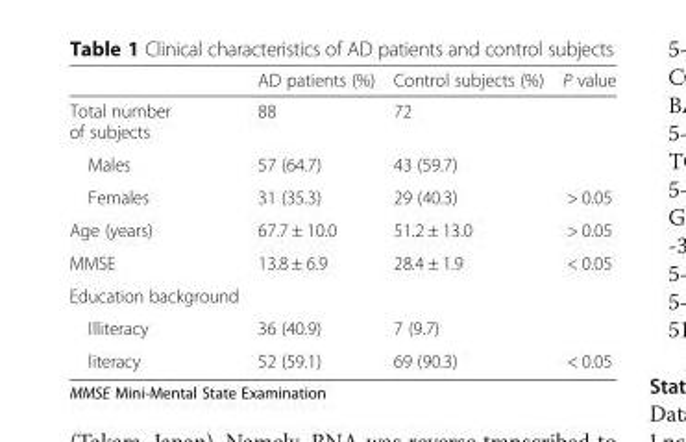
<table><thead><tr><td></td><td>AD patients (%)</td><td>Control subjects (%)</td><td>P value</td></tr></thead><tbody><tr><td>Total number of subjects</td><td>88</td><td>72</td><td></td></tr><tr><td>Males</td><td>57 (64.7)</td><td>43 (59.7)</td><td></td></tr><tr><td>Females</td><td>31 (35.3)</td><td>29 (40.3)</td><td>&gt; 0.05</td></tr><tr><td>Age (years)</td><td>67.7 ± 10.0</td><td>51.2 ± 13.0</td><td>&gt; 0.05</td></tr><tr><td>MMSE</td><td>13.8 ± 6.9</td><td>28.4 ± 1.9</td><td>&lt; 0.05</td></tr><tr><td colspan="4">Education background</td></tr><tr><td>Illiteracy</td><td>36 (40.9)</td><td>7 (9.7)</td><td></td></tr><tr><td>literacy</td><td>52 (59.1)</td><td>69 (90.3)</td><td>&lt; 0.05</td></tr></tbody></table>